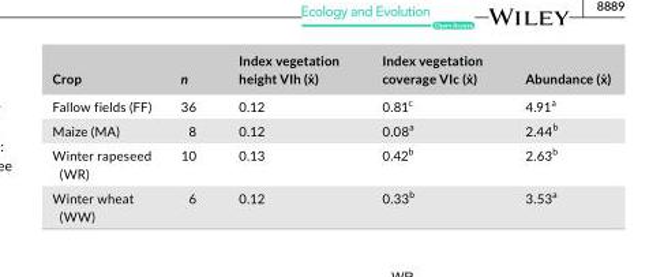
<table><thead><tr><td>Crop</td><td>n</td><td>Index vegetation height VIh (ẋ)</td><td>Index vegetation coverage VIc (ẋ)</td><td>Abundance (ẋ)</td></tr></thead><tbody><tr><td>Fallow fields (FF)</td><td>36</td><td>0.12</td><td>0.81<sup>c</sup></td><td>4.91<sup>a</sup></td></tr><tr><td>Maize (MA)</td><td>8</td><td>0.12</td><td>0.08<sup>a</sup></td><td>2.44<sup>b</sup></td></tr><tr><td>Winter rapeseed (WR)</td><td>10</td><td>0.13</td><td>0.42<sup>b</sup></td><td>2.63<sup>b</sup></td></tr><tr><td>Winter wheat (WW)</td><td>6</td><td>0.12</td><td>0.33<sup>b</sup></td><td>3.53<sup>a</sup></td></tr></tbody></table>